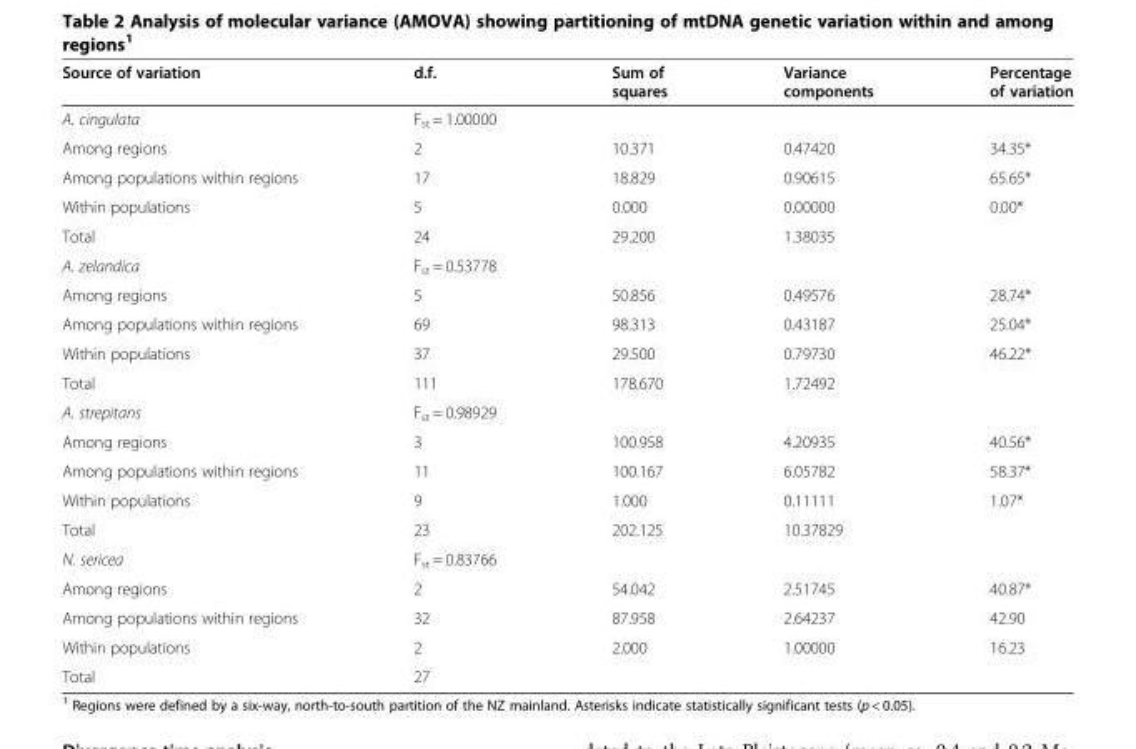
<table><thead><tr><td>Source of variation</td><td>d.f.</td><td>Sum of squares</td><td>Variance components</td><td>Percentage of variation</td></tr></thead><tbody><tr><td>A. cingulata</td><td>F<sub>st</sub> = 1.00000</td><td></td><td></td><td></td></tr><tr><td>Among regions</td><td>2</td><td>10.371</td><td>0.47420</td><td>34.35*</td></tr><tr><td>Among populations within regions</td><td>17</td><td>18.829</td><td>0.90615</td><td>65.65*</td></tr><tr><td>Within populations</td><td>5</td><td>0.000</td><td>0.00000</td><td>0.00*</td></tr><tr><td>Total</td><td>24</td><td>29.200</td><td>1.38035</td><td></td></tr><tr><td>A. zelandica</td><td>F<sub>st</sub> = 0.53778</td><td></td><td></td><td></td></tr><tr><td>Among regions</td><td>5</td><td>50.856</td><td>0.49576</td><td>28.74*</td></tr><tr><td>Among populations within regions</td><td>69</td><td>98.313</td><td>0.43187</td><td>25.04*</td></tr><tr><td>Within populations</td><td>37</td><td>29.500</td><td>0.79730</td><td>46.22*</td></tr><tr><td>Total</td><td>111</td><td>178.670</td><td>1.72492</td><td></td></tr><tr><td>A. strepitans</td><td>F<sub>st</sub> = 0.98929</td><td></td><td></td><td></td></tr><tr><td>Among regions</td><td>3</td><td>100.958</td><td>4.20935</td><td>40.56*</td></tr><tr><td>Among populations within regions</td><td>11</td><td>100.167</td><td>6.05782</td><td>58.37*</td></tr><tr><td>Within populations</td><td>9</td><td>1.000</td><td>0.11111</td><td>1.07*</td></tr><tr><td>Total</td><td>23</td><td>202.125</td><td>10.37829</td><td></td></tr><tr><td>N. sericea</td><td>F<sub>st</sub> = 0.83766</td><td></td><td></td><td></td></tr><tr><td>Among regions</td><td>2</td><td>54.042</td><td>2.51745</td><td>40.87*</td></tr><tr><td>Among populations within regions</td><td>32</td><td>87.958</td><td>2.64237</td><td>42.90</td></tr><tr><td>Within populations</td><td>2</td><td>2.000</td><td>1.00000</td><td>16.23</td></tr><tr><td>Total</td><td>27</td><td></td><td></td><td></td></tr></tbody></table>